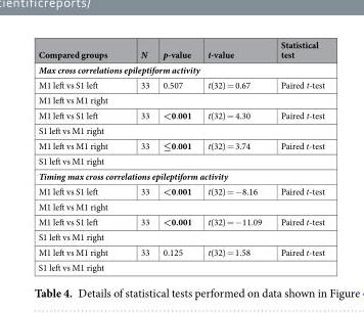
<table><thead><tr><td>Compared groups</td><td>N</td><td>p-value</td><td>t-value</td><td>Statistical test</td></tr></thead><tbody><tr><td colspan="5">Max cross correlations epileptiform activity</td></tr><tr><td>M1 left vs S1 left</td><td>33</td><td>0.507</td><td>t(32) = 0.67</td><td>Paired t-test</td></tr><tr><td colspan="5">M1 left vs M1 right</td></tr><tr><td>M1 left vs S1 left</td><td>33</td><td>&lt;0.001</td><td>t(32) = 4.30</td><td>Paired t-test</td></tr><tr><td colspan="5">S1 left vs M1 right</td></tr><tr><td>M1 left vs M1 right</td><td>33</td><td>≤0.001</td><td>t(32) = 3.74</td><td>Paired t-test</td></tr><tr><td colspan="5">S1 left vs M1 right</td></tr><tr><td colspan="5">Timing max cross correlations epileptiform activity</td></tr><tr><td>M1 left vs S1 left</td><td>33</td><td>&lt;0.001</td><td>t(32) = −8.16</td><td>Paired t-test</td></tr><tr><td colspan="5">M1 left vs M1 right</td></tr><tr><td>M1 left vs S1 left</td><td>33</td><td>&lt;0.001</td><td>t(32) = −11.09</td><td>Paired t-test</td></tr><tr><td colspan="5">S1 left vs M1 right</td></tr><tr><td>M1 left vs M1 right</td><td>33</td><td>0.125</td><td>t(32) = 1.58</td><td>Paired t-test</td></tr><tr><td colspan="5">S1 left vs M1 right</td></tr></tbody></table>